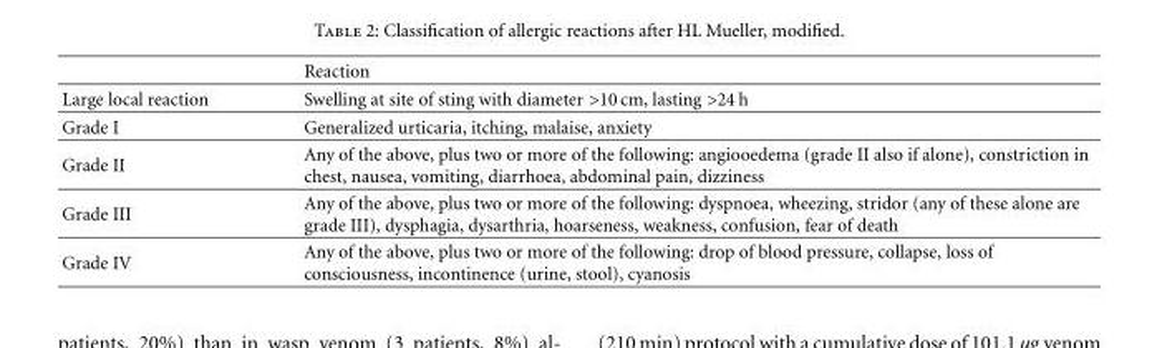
<table><thead><tr><td></td><td>Reaction</td></tr></thead><tbody><tr><td>Large local reaction</td><td>Swelling at site of sting with diameter &gt;10 cm, lasting &gt;24 h</td></tr><tr><td>Grade I</td><td>Generalized urticaria, itching, malaise, anxiety</td></tr><tr><td>Grade II</td><td>Any of the above, plus two or more of the following: angiooedema (grade II also if alone), constriction in chest, nausea, vomiting, diarrhoea, abdominal pain, dizziness</td></tr><tr><td>Grade III</td><td>Any of the above, plus two or more of the following: dyspnoea, wheezing, stridor (any of these alone are grade III), dysphagia, dysarthria, hoarseness, weakness, confusion, fear of death</td></tr><tr><td>Grade IV</td><td>Any of the above, plus two or more of the following: drop of blood pressure, collapse, loss of consciousness, incontinence (urine, stool), cyanosis</td></tr></tbody></table>